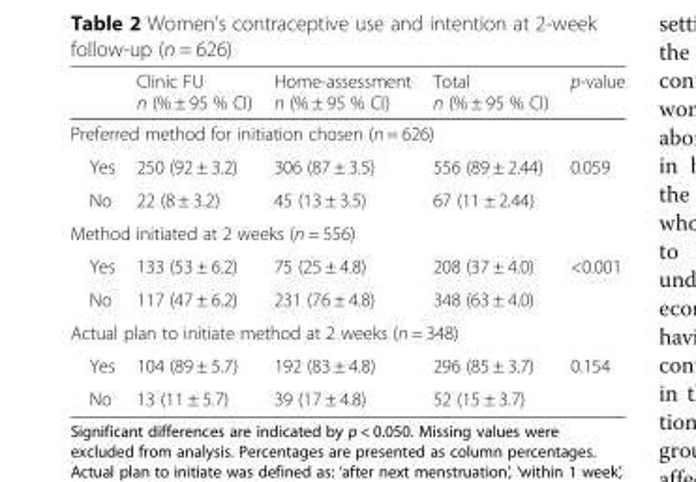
<table><thead><tr><td></td><td>Clinic FU n (% ± 95 % CI)</td><td>Home-assessment n (% ± 95 % CI)</td><td>Total n (% ± 95 % CI)</td><td>p-value</td></tr></thead><tbody><tr><td colspan="5">Preferred method for initiation chosen (n = 626)</td></tr><tr><td>Yes</td><td>250 (92 ± 3.2)</td><td>306 (87 ± 3.5)</td><td>556 (89 ± 2.44)</td><td>0.059</td></tr><tr><td>No</td><td>22 (8 ± 3.2)</td><td>45 (13 ± 3.5)</td><td>67 (11 ± 2.44)</td><td></td></tr><tr><td colspan="5">Method initiated at 2 weeks (n = 556)</td></tr><tr><td>Yes</td><td>133 (53 ± 6.2)</td><td>75 (25 ± 4.8)</td><td>208 (37 ± 4.0)</td><td>&lt;0.001</td></tr><tr><td>No</td><td>117 (47 ± 6.2)</td><td>231 (76 ± 4.8)</td><td>348 (63 ± 4.0)</td><td></td></tr><tr><td colspan="5">Actual plan to initiate method at 2 weeks (n = 348)</td></tr><tr><td>Yes</td><td>104 (89 ± 5.7)</td><td>192 (83 ± 4.8)</td><td>296 (85 ± 3.7)</td><td>0.154</td></tr><tr><td>No</td><td>13 (11 ± 5.7)</td><td>39 (17 ± 4.8)</td><td>52 (15 ± 3.7)</td><td></td></tr></tbody></table>